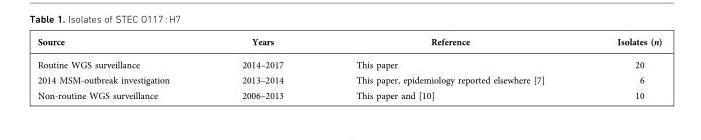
<table><thead><tr><td>Source</td><td>Years</td><td>Reference</td><td>Isolates (n)</td></tr></thead><tbody><tr><td>Routine WGS surveillance</td><td>2014–2017</td><td>This paper</td><td>20</td></tr><tr><td>2014 MSM-outbreak investigation</td><td>2013–2014</td><td>This paper, epidemiology reported elsewhere [7]</td><td>6</td></tr><tr><td>Non-routine WGS surveillance</td><td>2006–2013</td><td>This paper and [10]</td><td>10</td></tr></tbody></table>